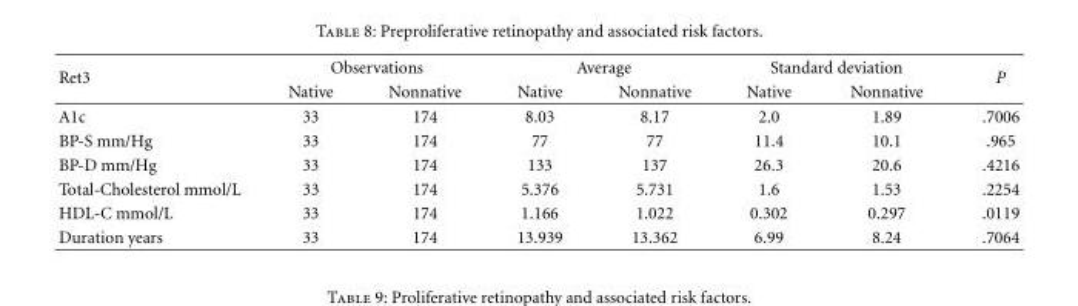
<table><thead><tr><td rowspan="2">Ret3</td><td colspan="2">Observations</td><td colspan="2">Average</td><td colspan="2">Standard deviation</td><td rowspan="2">P</td></tr><tr><td>Native</td><td>Nonnative</td><td>Native</td><td>Nonnative</td><td>Native</td><td>Nonnative</td></tr></thead><tbody><tr><td>A1c</td><td>33</td><td>174</td><td>8.03</td><td>8.17</td><td>2.0</td><td>1.89</td><td>.7006</td></tr><tr><td>BP-S mm/Hg</td><td>33</td><td>174</td><td>77</td><td>77</td><td>11.4</td><td>10.1</td><td>.965</td></tr><tr><td>BP-D mm/Hg</td><td>33</td><td>174</td><td>133</td><td>137</td><td>26.3</td><td>20.6</td><td>.4216</td></tr><tr><td>Total-Cholesterol mmol/L</td><td>33</td><td>174</td><td>5.376</td><td>5.731</td><td>1.6</td><td>1.53</td><td>.2254</td></tr><tr><td>HDL-C mmol/L</td><td>33</td><td>174</td><td>1.166</td><td>1.022</td><td>0.302</td><td>0.297</td><td>.0119</td></tr><tr><td>Duration years</td><td>33</td><td>174</td><td>13.939</td><td>13.362</td><td>6.99</td><td>8.24</td><td>.7064</td></tr></tbody></table>